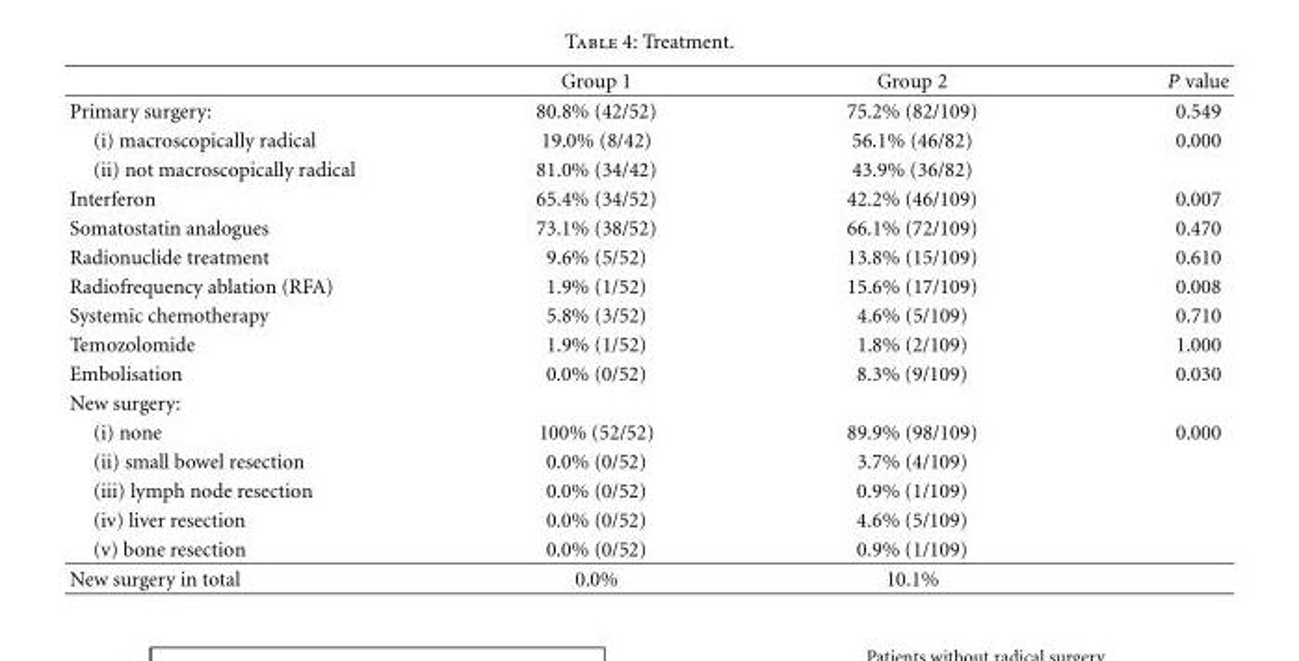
<table><thead><tr><td></td><td>Group 1</td><td>Group 2</td><td>P value</td></tr></thead><tbody><tr><td>Primary surgery:</td><td>80.8% (42/52)</td><td>75.2% (82/109)</td><td>0.549</td></tr><tr><td>(i) macroscopically radical</td><td>19.0% (8/42)</td><td>56.1% (46/82)</td><td>0.000</td></tr><tr><td>(ii) not macroscopically radical</td><td>81.0% (34/42)</td><td>43.9% (36/82)</td><td></td></tr><tr><td>Interferon</td><td>65.4% (34/52)</td><td>42.2% (46/109)</td><td>0.007</td></tr><tr><td>Somatostatin analogues</td><td>73.1% (38/52)</td><td>66.1% (72/109)</td><td>0.470</td></tr><tr><td>Radionuclide treatment</td><td>9.6% (5/52)</td><td>13.8% (15/109)</td><td>0.610</td></tr><tr><td>Radiofrequency ablation (RFA)</td><td>1.9% (1/52)</td><td>15.6% (17/109)</td><td>0.008</td></tr><tr><td>Systemic chemotherapy</td><td>5.8% (3/52)</td><td>4.6% (5/109)</td><td>0.710</td></tr><tr><td>Temozolomide</td><td>1.9% (1/52)</td><td>1.8% (2/109)</td><td>1.000</td></tr><tr><td>Embolisation</td><td>0.0% (0/52)</td><td>8.3% (9/109)</td><td>0.030</td></tr><tr><td colspan="4">New surgery:</td></tr><tr><td>(i) none</td><td>100% (52/52)</td><td>89.9% (98/109)</td><td>0.000</td></tr><tr><td>(ii) small bowel resection</td><td>0.0% (0/52)</td><td>3.7% (4/109)</td><td></td></tr><tr><td>(iii) lymph node resection</td><td>0.0% (0/52)</td><td>0.9% (1/109)</td><td></td></tr><tr><td>(iv) liver resection</td><td>0.0% (0/52)</td><td>4.6% (5/109)</td><td></td></tr><tr><td>(v) bone resection</td><td>0.0% (0/52)</td><td>0.9% (1/109)</td><td></td></tr><tr><td>New surgery in total</td><td>0.0%</td><td>10.1%</td><td></td></tr></tbody></table>